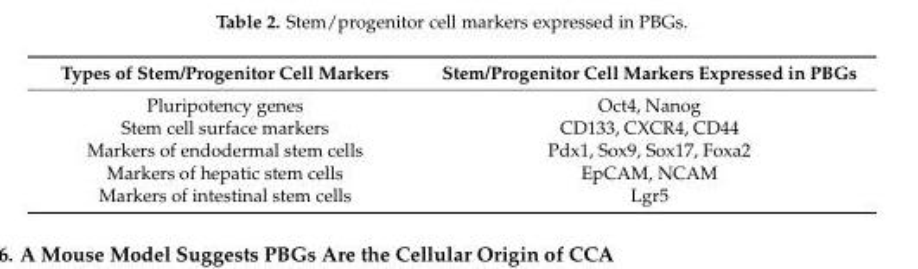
<table><thead><tr><td>Types of Stem/Progenitor Cell Markers</td><td>Stem/Progenitor Cell Markers Expressed in PBGs</td></tr></thead><tbody><tr><td>Pluripotency genes</td><td>Oct4, Nanog</td></tr><tr><td>Stem cell surface markers</td><td>CD133, CXCR4, CD44</td></tr><tr><td>Markers of endodermal stem cells</td><td>Pdx1, Sox9, Sox17, Foxa2</td></tr><tr><td>Markers of hepatic stem cells</td><td>EpCAM, NCAM</td></tr><tr><td>Markers of intestinal stem cells</td><td>Lgr5</td></tr></tbody></table>